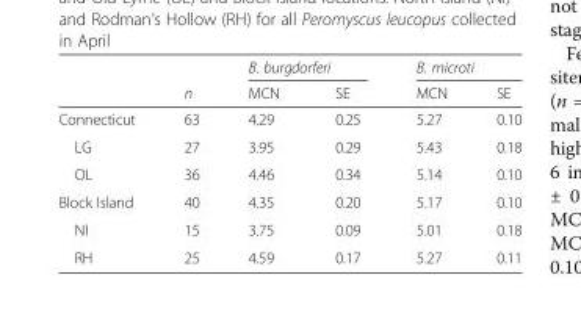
<table><thead><tr><td rowspan="2"></td><td rowspan="2">n</td><td colspan="2">B. burgdorferi</td><td colspan="2">B. microti</td></tr><tr><td>MCN</td><td>SE</td><td>MCN</td><td>SE</td></tr></thead><tbody><tr><td>Connecticut</td><td>63</td><td>4.29</td><td>0.25</td><td>5.27</td><td>0.10</td></tr><tr><td>LG</td><td>27</td><td>3.95</td><td>0.29</td><td>5.43</td><td>0.18</td></tr><tr><td>OL</td><td>36</td><td>4.46</td><td>0.34</td><td>5.14</td><td>0.10</td></tr><tr><td>Block Island</td><td>40</td><td>4.35</td><td>0.20</td><td>5.17</td><td>0.10</td></tr><tr><td>NI</td><td>15</td><td>3.75</td><td>0.09</td><td>5.01</td><td>0.18</td></tr><tr><td>RH</td><td>25</td><td>4.59</td><td>0.17</td><td>5.27</td><td>0.11</td></tr></tbody></table>